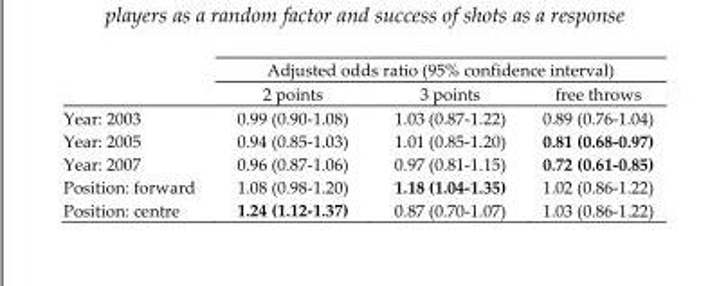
<table><thead><tr><td rowspan="2"></td><td colspan="3">Adjusted odds ratio (95% confidence interval)</td></tr><tr><td>2 points</td><td>3 points</td><td>free throws</td></tr></thead><tbody><tr><td>Year: 2003</td><td>0.99 (0.90-1.08)</td><td>1.03 (0.87-1.22)</td><td>0.89 (0.76-1.04)</td></tr><tr><td>Year: 2005</td><td>0.94 (0.85-1.03)</td><td>1.01 (0.85-1.20)</td><td>0.81 (0.68-0.97)</td></tr><tr><td>Year: 2007</td><td>0.96 (0.87-1.06)</td><td>0.97 (0.81-1.15)</td><td>0.72 (0.61-0.85)</td></tr><tr><td>Position: forward</td><td>1.08 (0.98-1.20)</td><td>1.18 (1.04-1.35)</td><td>1.02 (0.86-1.22)</td></tr><tr><td>Position: centre</td><td>1.24 (1.12-1.37)</td><td>0.87 (0.70-1.07)</td><td>1.03 (0.86-1.22)</td></tr></tbody></table>